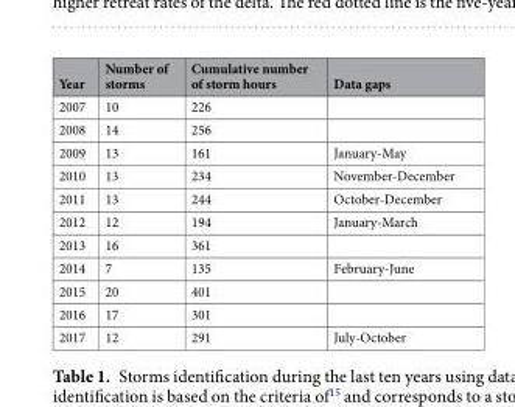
<table><thead><tr><td>Year</td><td>Number of storms</td><td>Cumulative number of storm hours</td><td>Data gaps</td></tr></thead><tbody><tr><td>2007</td><td>10</td><td>226</td><td></td></tr><tr><td>2008</td><td>14</td><td>256</td><td></td></tr><tr><td>2009</td><td>13</td><td>161</td><td>January-May</td></tr><tr><td>2010</td><td>13</td><td>234</td><td>November-December</td></tr><tr><td>2011</td><td>13</td><td>244</td><td>October-December</td></tr><tr><td>2012</td><td>12</td><td>194</td><td>January-March</td></tr><tr><td>2013</td><td>16</td><td>361</td><td></td></tr><tr><td>2014</td><td>7</td><td>135</td><td>February-June</td></tr><tr><td>2015</td><td>20</td><td>401</td><td></td></tr><tr><td>2016</td><td>17</td><td>301</td><td></td></tr><tr><td>2017</td><td>12</td><td>291</td><td>July-October</td></tr></tbody></table>